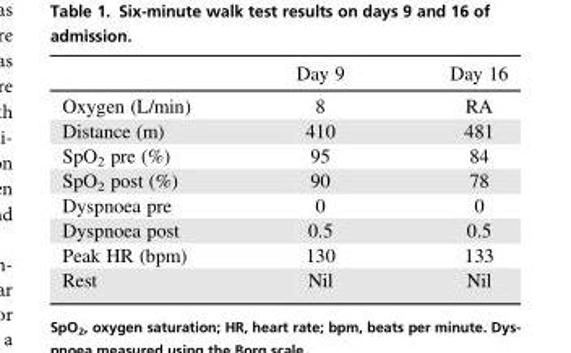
<table><thead><tr><td></td><td>Day 9</td><td>Day 16</td></tr></thead><tbody><tr><td>Oxygen (L/min)</td><td>8</td><td>RA</td></tr><tr><td>Distance (m)</td><td>410</td><td>481</td></tr><tr><td>SpO<sub>2</sub> pre (%)</td><td>95</td><td>84</td></tr><tr><td>SpO<sub>2</sub> post (%)</td><td>90</td><td>78</td></tr><tr><td>Dyspnoea pre</td><td>0</td><td>0</td></tr><tr><td>Dyspnoea post</td><td>0.5</td><td>0.5</td></tr><tr><td>Peak HR (bpm)</td><td>130</td><td>133</td></tr><tr><td>Rest</td><td>Nil</td><td>Nil</td></tr></tbody></table>